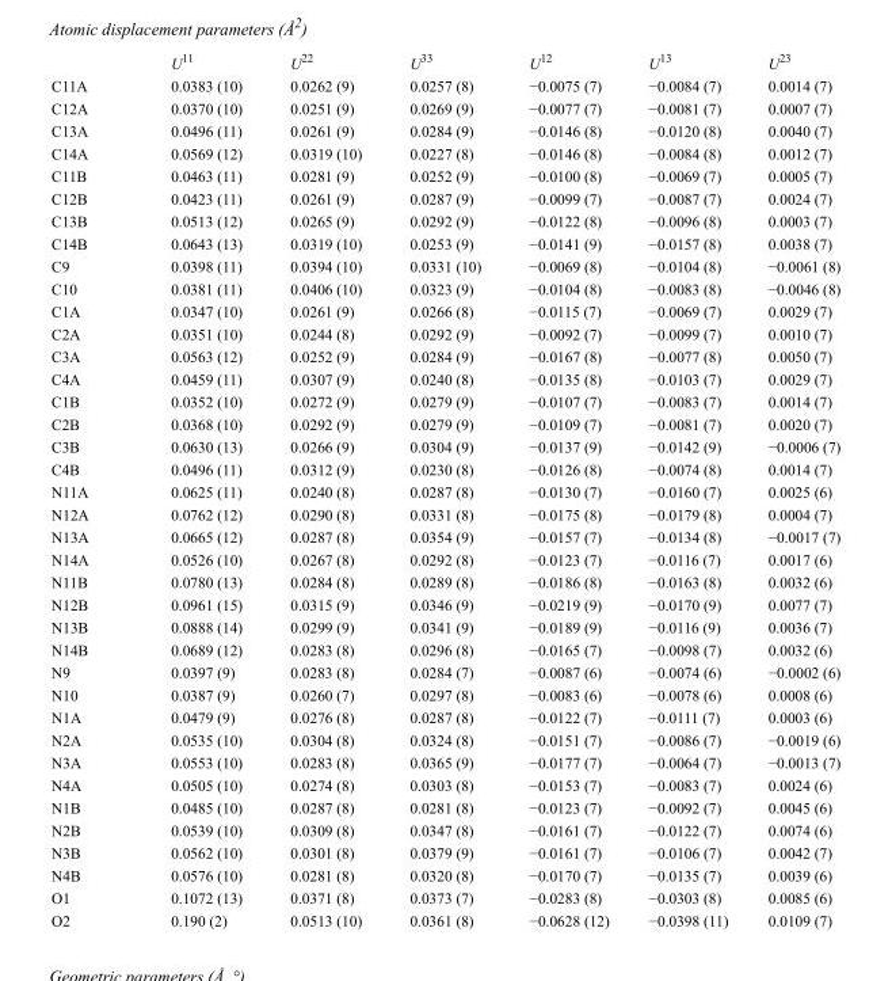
<table><thead><tr><td></td><td>U<sup>11</sup></td><td>U<sup>22</sup></td><td>U<sup>33</sup></td><td>U<sup>12</sup></td><td>U<sup>13</sup></td><td>U<sup>23</sup></td></tr></thead><tbody><tr><td>C11A</td><td>0.0383 (10)</td><td>0.0262 (9)</td><td>0.0257 (8)</td><td>−0.0075 (7)</td><td>−0.0084 (7)</td><td>0.0014 (7)</td></tr><tr><td>C12A</td><td>0.0370 (10)</td><td>0.0251 (9)</td><td>0.0269 (9)</td><td>−0.0077 (7)</td><td>−0.0081 (7)</td><td>0.0007 (7)</td></tr><tr><td>C13A</td><td>0.0496 (11)</td><td>0.0261 (9)</td><td>0.0284 (9)</td><td>−0.0146 (8)</td><td>−0.0120 (8)</td><td>0.0040 (7)</td></tr><tr><td>C14A</td><td>0.0569 (12)</td><td>0.0319 (10)</td><td>0.0227 (8)</td><td>−0.0146 (8)</td><td>−0.0084 (8)</td><td>0.0012 (7)</td></tr><tr><td>C11B</td><td>0.0463 (11)</td><td>0.0281 (9)</td><td>0.0252 (9)</td><td>−0.0100 (8)</td><td>−0.0069 (7)</td><td>0.0005 (7)</td></tr><tr><td>C12B</td><td>0.0423 (11)</td><td>0.0261 (9)</td><td>0.0287 (9)</td><td>−0.0099 (7)</td><td>−0.0087 (7)</td><td>0.0024 (7)</td></tr><tr><td>C13B</td><td>0.0513 (12)</td><td>0.0265 (9)</td><td>0.0292 (9)</td><td>−0.0122 (8)</td><td>−0.0096 (8)</td><td>0.0003 (7)</td></tr><tr><td>C14B</td><td>0.0643 (13)</td><td>0.0319 (10)</td><td>0.0253 (9)</td><td>−0.0141 (9)</td><td>−0.0157 (8)</td><td>0.0038 (7)</td></tr><tr><td>C9</td><td>0.0398 (11)</td><td>0.0394 (10)</td><td>0.0331 (10)</td><td>−0.0069 (8)</td><td>−0.0104 (8)</td><td>−0.0061 (8)</td></tr><tr><td>C10</td><td>0.0381 (11)</td><td>0.0406 (10)</td><td>0.0323 (9)</td><td>−0.0104 (8)</td><td>−0.0083 (8)</td><td>−0.0046 (8)</td></tr><tr><td>C1A</td><td>0.0347 (10)</td><td>0.0261 (9)</td><td>0.0266 (8)</td><td>−0.0115 (7)</td><td>−0.0069 (7)</td><td>0.0029 (7)</td></tr><tr><td>C2A</td><td>0.0351 (10)</td><td>0.0244 (8)</td><td>0.0292 (9)</td><td>−0.0092 (7)</td><td>−0.0099 (7)</td><td>0.0010 (7)</td></tr><tr><td>C3A</td><td>0.0563 (12)</td><td>0.0252 (9)</td><td>0.0284 (9)</td><td>−0.0167 (8)</td><td>−0.0077 (8)</td><td>0.0050 (7)</td></tr><tr><td>C4A</td><td>0.0459 (11)</td><td>0.0307 (9)</td><td>0.0240 (8)</td><td>−0.0135 (8)</td><td>−0.0103 (7)</td><td>0.0029 (7)</td></tr><tr><td>C1B</td><td>0.0352 (10)</td><td>0.0272 (9)</td><td>0.0279 (9)</td><td>−0.0107 (7)</td><td>−0.0083 (7)</td><td>0.0014 (7)</td></tr><tr><td>C2B</td><td>0.0368 (10)</td><td>0.0292 (9)</td><td>0.0279 (9)</td><td>−0.0109 (7)</td><td>−0.0081 (7)</td><td>0.0020 (7)</td></tr><tr><td>C3B</td><td>0.0630 (13)</td><td>0.0266 (9)</td><td>0.0304 (9)</td><td>−0.0137 (9)</td><td>−0.0142 (9)</td><td>−0.0006 (7)</td></tr><tr><td>C4B</td><td>0.0496 (11)</td><td>0.0312 (9)</td><td>0.0230 (8)</td><td>−0.0126 (8)</td><td>−0.0074 (8)</td><td>0.0014 (7)</td></tr><tr><td>N11A</td><td>0.0625 (11)</td><td>0.0240 (8)</td><td>0.0287 (8)</td><td>−0.0130 (7)</td><td>−0.0160 (7)</td><td>0.0025 (6)</td></tr><tr><td>N12A</td><td>0.0762 (12)</td><td>0.0290 (8)</td><td>0.0331 (8)</td><td>−0.0175 (8)</td><td>−0.0179 (8)</td><td>0.0004 (7)</td></tr><tr><td>N13A</td><td>0.0665 (12)</td><td>0.0287 (8)</td><td>0.0354 (9)</td><td>−0.0157 (7)</td><td>−0.0134 (8)</td><td>−0.0017 (7)</td></tr><tr><td>N14A</td><td>0.0526 (10)</td><td>0.0267 (8)</td><td>0.0292 (8)</td><td>−0.0123 (7)</td><td>−0.0116 (7)</td><td>0.0017 (6)</td></tr><tr><td>N11B</td><td>0.0780 (13)</td><td>0.0284 (8)</td><td>0.0289 (8)</td><td>−0.0186 (8)</td><td>−0.0163 (8)</td><td>0.0032 (6)</td></tr><tr><td>N12B</td><td>0.0961 (15)</td><td>0.0315 (9)</td><td>0.0346 (9)</td><td>−0.0219 (9)</td><td>−0.0170 (9)</td><td>0.0077 (7)</td></tr><tr><td>N13B</td><td>0.0888 (14)</td><td>0.0299 (9)</td><td>0.0341 (9)</td><td>−0.0189 (9)</td><td>−0.0116 (9)</td><td>0.0036 (7)</td></tr><tr><td>N14B</td><td>0.0689 (12)</td><td>0.0283 (8)</td><td>0.0296 (8)</td><td>−0.0165 (7)</td><td>−0.0098 (7)</td><td>0.0032 (6)</td></tr><tr><td>N9</td><td>0.0397 (9)</td><td>0.0283 (8)</td><td>0.0284 (7)</td><td>−0.0087 (6)</td><td>−0.0074 (6)</td><td>−0.0002 (6)</td></tr><tr><td>N10</td><td>0.0387 (9)</td><td>0.0260 (7)</td><td>0.0297 (8)</td><td>−0.0083 (6)</td><td>−0.0078 (6)</td><td>0.0008 (6)</td></tr><tr><td>N1A</td><td>0.0479 (9)</td><td>0.0276 (8)</td><td>0.0287 (8)</td><td>−0.0122 (7)</td><td>−0.0111 (7)</td><td>0.0003 (6)</td></tr><tr><td>N2A</td><td>0.0535 (10)</td><td>0.0304 (8)</td><td>0.0324 (8)</td><td>−0.0151 (7)</td><td>−0.0086 (7)</td><td>−0.0019 (6)</td></tr><tr><td>N3A</td><td>0.0553 (10)</td><td>0.0283 (8)</td><td>0.0365 (9)</td><td>−0.0177 (7)</td><td>−0.0064 (7)</td><td>−0.0013 (7)</td></tr><tr><td>N4A</td><td>0.0505 (10)</td><td>0.0274 (8)</td><td>0.0303 (8)</td><td>−0.0153 (7)</td><td>−0.0083 (7)</td><td>0.0024 (6)</td></tr><tr><td>N1B</td><td>0.0485 (10)</td><td>0.0287 (8)</td><td>0.0281 (8)</td><td>−0.0123 (7)</td><td>−0.0092 (7)</td><td>0.0045 (6)</td></tr><tr><td>N2B</td><td>0.0539 (10)</td><td>0.0309 (8)</td><td>0.0347 (8)</td><td>−0.0161 (7)</td><td>−0.0122 (7)</td><td>0.0074 (6)</td></tr><tr><td>N3B</td><td>0.0562 (10)</td><td>0.0301 (8)</td><td>0.0379 (9)</td><td>−0.0161 (7)</td><td>−0.0106 (7)</td><td>0.0042 (7)</td></tr><tr><td>N4B</td><td>0.0576 (10)</td><td>0.0281 (8)</td><td>0.0320 (8)</td><td>−0.0170 (7)</td><td>−0.0135 (7)</td><td>0.0039 (6)</td></tr><tr><td>O1</td><td>0.1072 (13)</td><td>0.0371 (8)</td><td>0.0373 (7)</td><td>−0.0283 (8)</td><td>−0.0303 (8)</td><td>0.0085 (6)</td></tr><tr><td>O2</td><td>0.190 (2)</td><td>0.0513 (10)</td><td>0.0361 (8)</td><td>−0.0628 (12)</td><td>−0.0398 (11)</td><td>0.0109 (7)</td></tr></tbody></table>